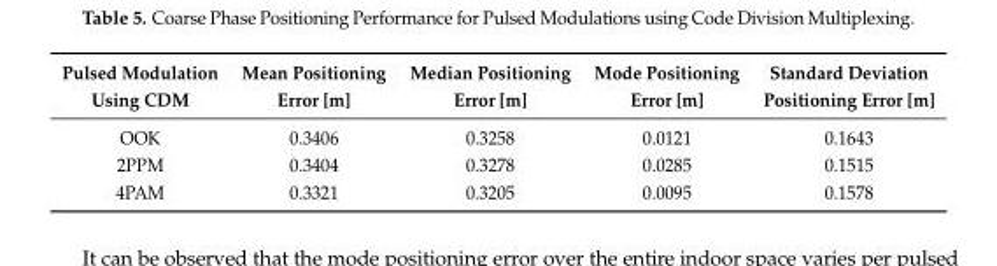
<table><thead><tr><td>Pulsed Modulation Using CDM</td><td>Mean Positioning Error [m]</td><td>Median Positioning Error [m]</td><td>Mode Positioning Error [m]</td><td>Standard Deviation Positioning Error [m]</td></tr></thead><tbody><tr><td>OOK</td><td>0.3406</td><td>0.3258</td><td>0.0121</td><td>0.1643</td></tr><tr><td>2PPM</td><td>0.3404</td><td>0.3278</td><td>0.0285</td><td>0.1515</td></tr><tr><td>4PAM</td><td>0.3321</td><td>0.3205</td><td>0.0095</td><td>0.1578</td></tr></tbody></table>